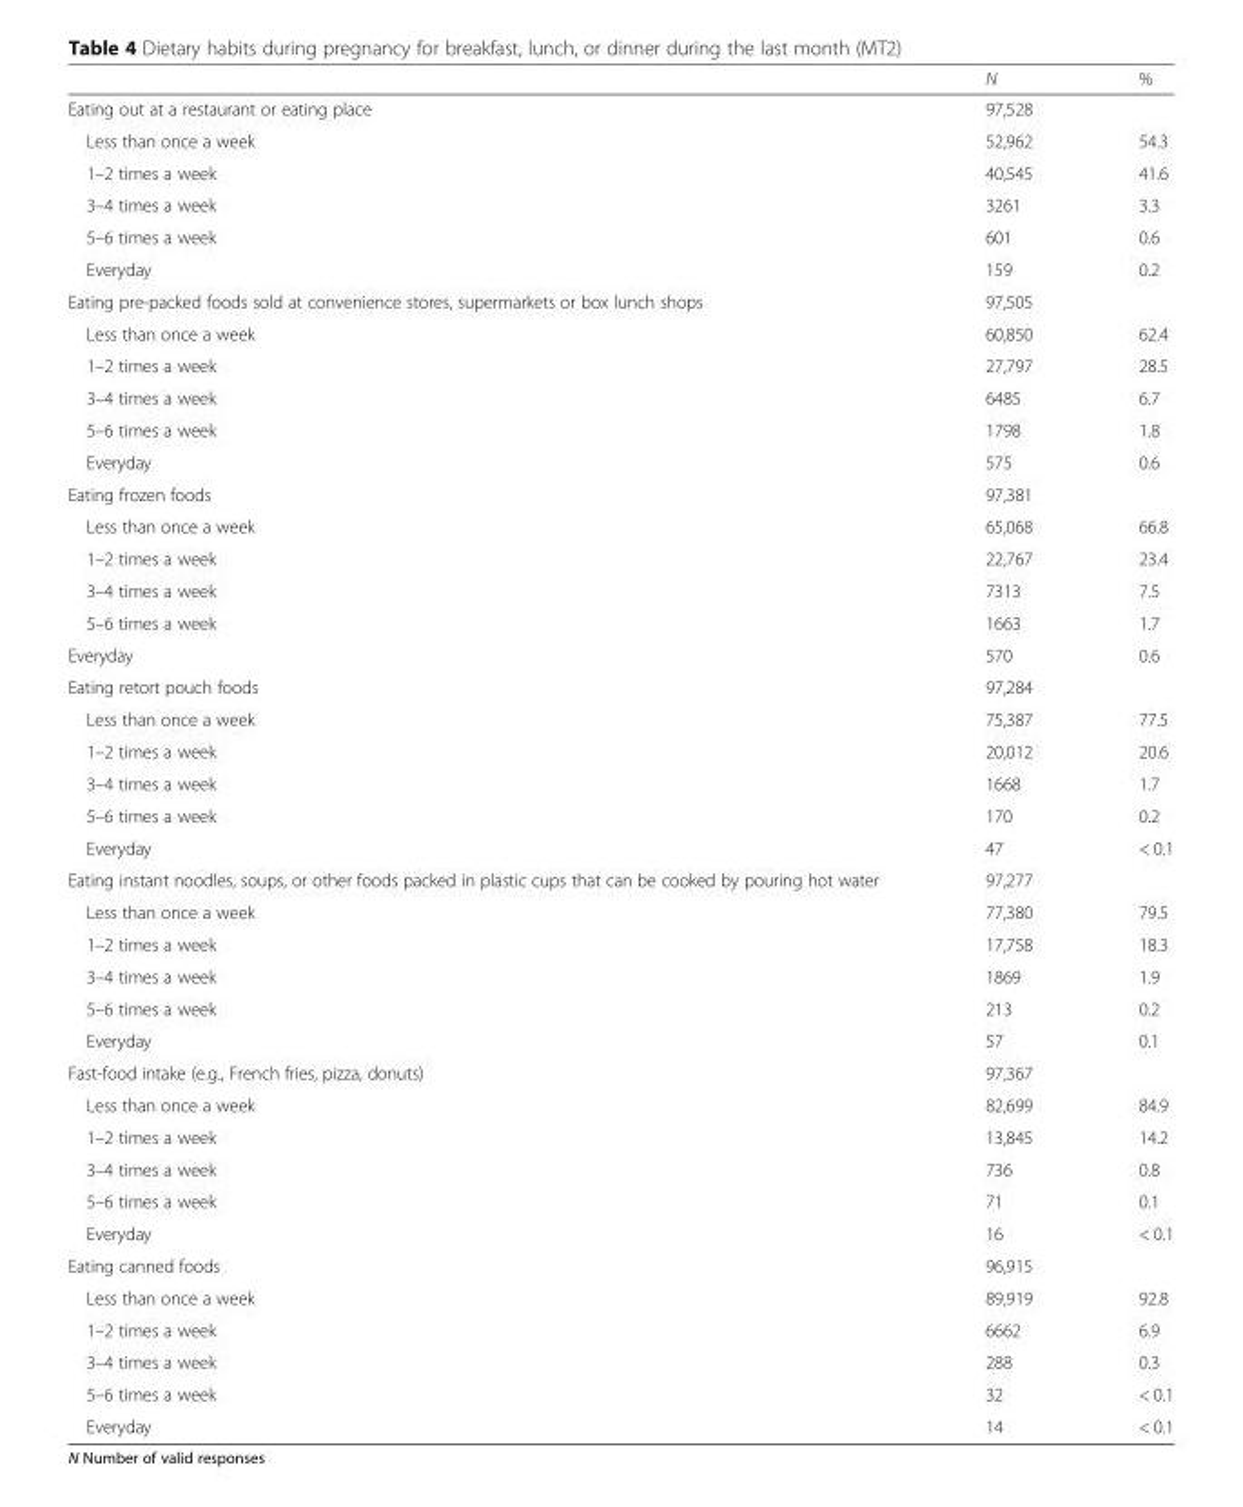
<table><thead><tr><td></td><td>N</td><td>%</td></tr></thead><tbody><tr><td>Eating out at a restaurant or eating place</td><td>97,528</td><td></td></tr><tr><td>Less than once a week</td><td>52,962</td><td>54.3</td></tr><tr><td>1–2 times a week</td><td>40,545</td><td>41.6</td></tr><tr><td>3–4 times a week</td><td>3261</td><td>3.3</td></tr><tr><td>5–6 times a week</td><td>601</td><td>0.6</td></tr><tr><td>Everyday</td><td>159</td><td>0.2</td></tr><tr><td>Eating pre-packed foods sold at convenience stores, supermarkets or box lunch shops</td><td>97,505</td><td></td></tr><tr><td>Less than once a week</td><td>60,850</td><td>62.4</td></tr><tr><td>1–2 times a week</td><td>27,797</td><td>28.5</td></tr><tr><td>3–4 times a week</td><td>6485</td><td>6.7</td></tr><tr><td>5–6 times a week</td><td>1798</td><td>1.8</td></tr><tr><td>Everyday</td><td>575</td><td>0.6</td></tr><tr><td>Eating frozen foods</td><td>97,381</td><td></td></tr><tr><td>Less than once a week</td><td>65,068</td><td>66.8</td></tr><tr><td>1–2 times a week</td><td>22,767</td><td>23.4</td></tr><tr><td>3–4 times a week</td><td>7313</td><td>7.5</td></tr><tr><td>5–6 times a week</td><td>1663</td><td>1.7</td></tr><tr><td>Everyday</td><td>570</td><td>0.6</td></tr><tr><td>Eating retort pouch foods</td><td>97,284</td><td></td></tr><tr><td>Less than once a week</td><td>75,387</td><td>77.5</td></tr><tr><td>1–2 times a week</td><td>20,012</td><td>20.6</td></tr><tr><td>3–4 times a week</td><td>1668</td><td>1.7</td></tr><tr><td>5–6 times a week</td><td>170</td><td>0.2</td></tr><tr><td>Everyday</td><td>47</td><td>&lt; 0.1</td></tr><tr><td>Eating instant noodles, soups, or other foods packed in plastic cups that can be cooked by pouring hot water</td><td>97,277</td><td></td></tr><tr><td>Less than once a week</td><td>77,380</td><td>79.5</td></tr><tr><td>1–2 times a week</td><td>17,758</td><td>18.3</td></tr><tr><td>3–4 times a week</td><td>1869</td><td>1.9</td></tr><tr><td>5–6 times a week</td><td>213</td><td>0.2</td></tr><tr><td>Everyday</td><td>57</td><td>0.1</td></tr><tr><td>Fast-food intake (e.g., French fries, pizza, donuts)</td><td>97,367</td><td></td></tr><tr><td>Less than once a week</td><td>82,699</td><td>84.9</td></tr><tr><td>1–2 times a week</td><td>13,845</td><td>14.2</td></tr><tr><td>3–4 times a week</td><td>736</td><td>0.8</td></tr><tr><td>5–6 times a week</td><td>71</td><td>0.1</td></tr><tr><td>Everyday</td><td>16</td><td>&lt; 0.1</td></tr><tr><td>Eating canned foods</td><td>96,915</td><td></td></tr><tr><td>Less than once a week</td><td>89,919</td><td>92.8</td></tr><tr><td>1–2 times a week</td><td>6662</td><td>6.9</td></tr><tr><td>3–4 times a week</td><td>288</td><td>0.3</td></tr><tr><td>5–6 times a week</td><td>32</td><td>&lt; 0.1</td></tr><tr><td>Everyday</td><td>14</td><td>&lt; 0.1</td></tr></tbody></table>